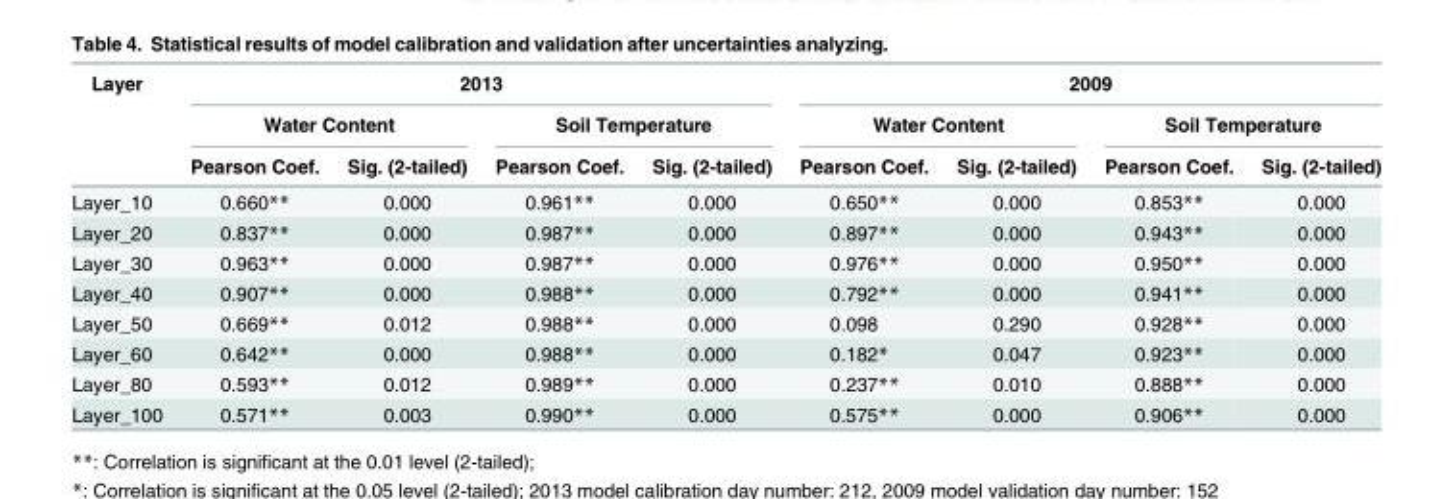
<table><thead><tr><td rowspan="3">Layer</td><td colspan="4">2013</td><td colspan="4">2009</td></tr><tr><td colspan="2">Water Content</td><td colspan="2">Soil Temperature</td><td colspan="2">Water Content</td><td colspan="2">Soil Temperature</td></tr><tr><td>Pearson Coef.</td><td>Sig. (2-tailed)</td><td>Pearson Coef.</td><td>Sig. (2-tailed)</td><td>Pearson Coef.</td><td>Sig. (2-tailed)</td><td>Pearson Coef.</td><td>Sig. (2-tailed)</td></tr></thead><tbody><tr><td>Layer_10</td><td>0.660**</td><td>0.000</td><td>0.961**</td><td>0.000</td><td>0.650**</td><td>0.000</td><td>0.853**</td><td>0.000</td></tr><tr><td>Layer_20</td><td>0.837**</td><td>0.000</td><td>0.987**</td><td>0.000</td><td>0.897**</td><td>0.000</td><td>0.943**</td><td>0.000</td></tr><tr><td>Layer_30</td><td>0.963**</td><td>0.000</td><td>0.987**</td><td>0.000</td><td>0.976**</td><td>0.000</td><td>0.950**</td><td>0.000</td></tr><tr><td>Layer_40</td><td>0.907**</td><td>0.000</td><td>0.988**</td><td>0.000</td><td>0.792**</td><td>0.000</td><td>0.941**</td><td>0.000</td></tr><tr><td>Layer_50</td><td>0.669**</td><td>0.012</td><td>0.988**</td><td>0.000</td><td>0.098</td><td>0.290</td><td>0.928**</td><td>0.000</td></tr><tr><td>Layer_60</td><td>0.642**</td><td>0.000</td><td>0.988**</td><td>0.000</td><td>0.182*</td><td>0.047</td><td>0.923**</td><td>0.000</td></tr><tr><td>Layer_80</td><td>0.593**</td><td>0.012</td><td>0.989**</td><td>0.000</td><td>0.237**</td><td>0.010</td><td>0.888**</td><td>0.000</td></tr><tr><td>Layer_100</td><td>0.571**</td><td>0.003</td><td>0.990**</td><td>0.000</td><td>0.575**</td><td>0.000</td><td>0.906**</td><td>0.000</td></tr></tbody></table>